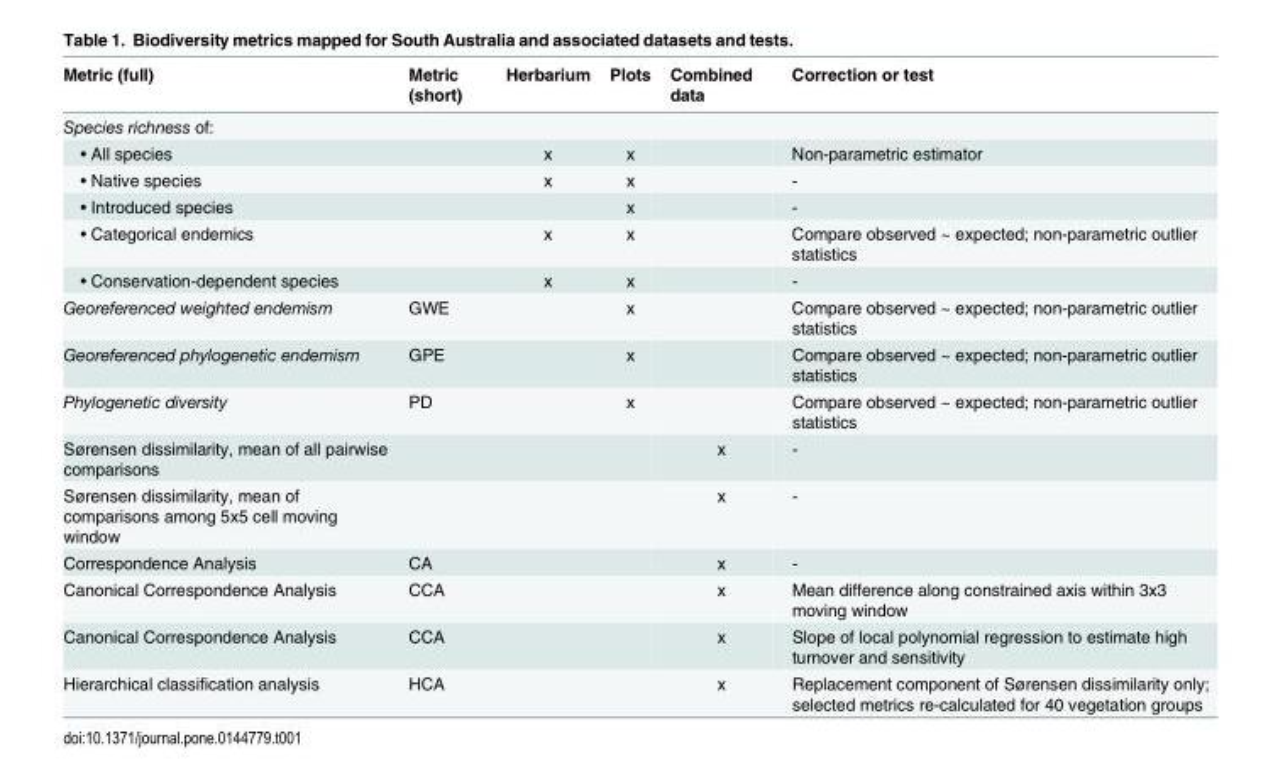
<table><thead><tr><td>Metric (full)</td><td>Metric (short)</td><td>Herbarium</td><td>Plots</td><td>Combined data</td><td>Correction or test</td></tr></thead><tbody><tr><td colspan="6">Species richness of:</td></tr><tr><td>• All species</td><td></td><td>x</td><td>x</td><td></td><td>Non-parametric estimator</td></tr><tr><td>• Native species</td><td></td><td>x</td><td>x</td><td></td><td>-</td></tr><tr><td>• Introduced species</td><td></td><td></td><td>x</td><td></td><td>-</td></tr><tr><td>• Categorical endemics</td><td></td><td>x</td><td>x</td><td></td><td>Compare observed ~ expected; non-parametric outlier statistics</td></tr><tr><td>• Conservation-dependent species</td><td></td><td>x</td><td>x</td><td></td><td>-</td></tr><tr><td>Georeferenced weighted endemism</td><td>GWE</td><td></td><td>x</td><td></td><td>Compare observed ~ expected; non-parametric outlier statistics</td></tr><tr><td>Georeferenced phylogenetic endemism</td><td>GPE</td><td></td><td>x</td><td></td><td>Compare observed ~ expected; non-parametric outlier statistics</td></tr><tr><td>Phylogenetic diversity</td><td>PD</td><td></td><td>x</td><td></td><td>Compare observed ~ expected; non-parametric outlier statistics</td></tr><tr><td>Sørensen dissimilarity, mean of all pairwise comparisons</td><td></td><td></td><td></td><td>x</td><td>-</td></tr><tr><td>Sørensen dissimilarity, mean of comparisons among 5x5 cell moving window</td><td></td><td></td><td></td><td>x</td><td>-</td></tr><tr><td>Correspondence Analysis</td><td>CA</td><td></td><td></td><td>x</td><td>-</td></tr><tr><td>Canonical Correspondence Analysis</td><td>CCA</td><td></td><td></td><td>x</td><td>Mean difference along constrained axis within 3x3 moving window</td></tr><tr><td>Canonical Correspondence Analysis</td><td>CCA</td><td></td><td></td><td>x</td><td>Slope of local polynomial regression to estimate high turnover and sensitivity</td></tr><tr><td>Hierarchical classification analysis</td><td>HCA</td><td></td><td></td><td>x</td><td>Replacement component of Sørensen dissimilarity only; selected metrics re-calculated for 40 vegetation groups</td></tr></tbody></table>